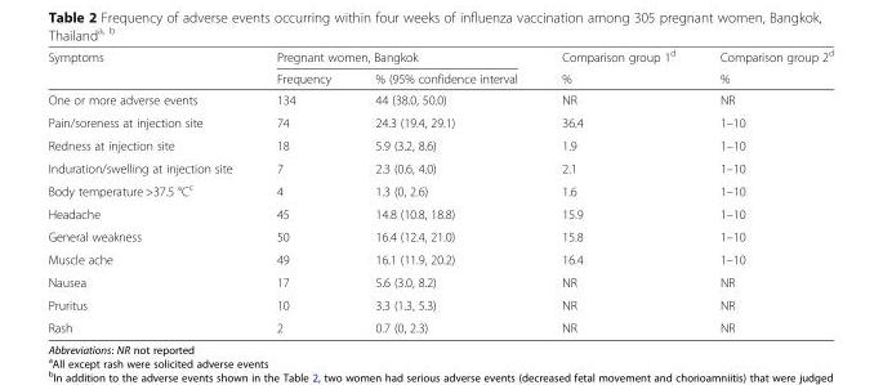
<table><thead><tr><td rowspan="2">Symptoms</td><td colspan="2">Pregnant women, Bangkok</td><td rowspan="2">Comparison group 1<sup>d</sup> %</td><td rowspan="2">Comparison group 2<sup>d</sup> %</td></tr><tr><td>Frequency</td><td>% (95% confidence interval</td></tr></thead><tbody><tr><td>One or more adverse events</td><td>134</td><td>44 (38.0, 50.0)</td><td>NR</td><td>NR</td></tr><tr><td>Pain/soreness at injection site</td><td>74</td><td>24.3 (19.4, 29.1)</td><td>36.4</td><td>1–10</td></tr><tr><td>Redness at injection site</td><td>18</td><td>5.9 (3.2, 8.6)</td><td>1.9</td><td>1–10</td></tr><tr><td>Induration/swelling at injection site</td><td>7</td><td>2.3 (0.6, 4.0)</td><td>2.1</td><td>1–10</td></tr><tr><td>Body temperature &gt;37.5 °C<sup>c</sup></td><td>4</td><td>1.3 (0, 2.6)</td><td>1.6</td><td>1–10</td></tr><tr><td>Headache</td><td>45</td><td>14.8 (10.8, 18.8)</td><td>15.9</td><td>1–10</td></tr><tr><td>General weakness</td><td>50</td><td>16.4 (12.4, 21.0)</td><td>15.8</td><td>1–10</td></tr><tr><td>Muscle ache</td><td>49</td><td>16.1 (11.9, 20.2)</td><td>16.4</td><td>1–10</td></tr><tr><td>Nausea</td><td>17</td><td>5.6 (3.0, 8.2)</td><td>NR</td><td>NR</td></tr><tr><td>Pruritus</td><td>10</td><td>3.3 (1.3, 5.3)</td><td>NR</td><td>NR</td></tr><tr><td>Rash</td><td>2</td><td>0.7 (0, 2.3)</td><td>NR</td><td>NR</td></tr></tbody></table>